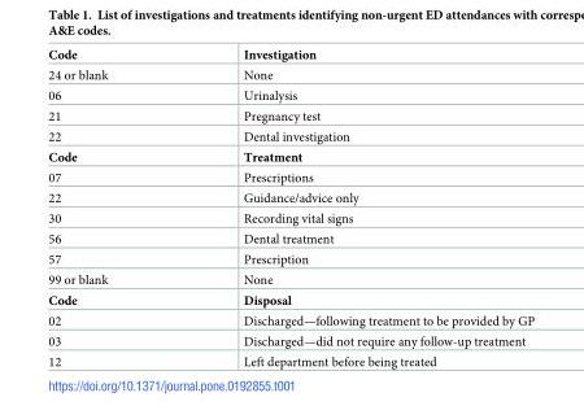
<table><tbody><tr><td>Code</td><td>Investigation</td></tr><tr><td>24 or blank</td><td>None</td></tr><tr><td>06</td><td>Urinalysis</td></tr><tr><td>21</td><td>Pregnancy test</td></tr><tr><td>22</td><td>Dental investigation</td></tr><tr><td>Code</td><td>Treatment</td></tr><tr><td>07</td><td>Prescriptions</td></tr><tr><td>22</td><td>Guidance/advice only</td></tr><tr><td>30</td><td>Recording vital signs</td></tr><tr><td>56</td><td>Dental treatment</td></tr><tr><td>57</td><td>Prescription</td></tr><tr><td>99 or blank</td><td>None</td></tr><tr><td>Code</td><td>Disposal</td></tr><tr><td>02</td><td>Discharged—following treatment to be provided by GP</td></tr><tr><td>03</td><td>Discharged—did not require any follow-up treatment</td></tr><tr><td>12</td><td>Left department before being treated</td></tr></tbody></table>